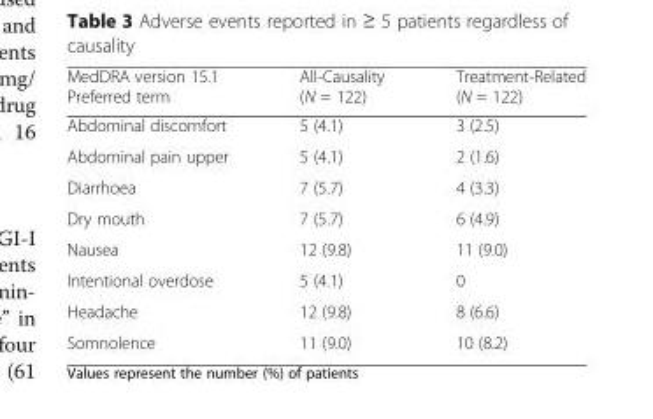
<table><thead><tr><td>MedDRA version 15.1 Preferred term</td><td>All-Causality (N = 122)</td><td>Treatment-Related (N = 122)</td></tr></thead><tbody><tr><td>Abdominal discomfort</td><td>5 (4.1)</td><td>3 (2.5)</td></tr><tr><td>Abdominal pain upper</td><td>5 (4.1)</td><td>2 (1.6)</td></tr><tr><td>Diarrhoea</td><td>7 (5.7)</td><td>4 (3.3)</td></tr><tr><td>Dry mouth</td><td>7 (5.7)</td><td>6 (4.9)</td></tr><tr><td>Nausea</td><td>12 (9.8)</td><td>11 (9.0)</td></tr><tr><td>Intentional overdose</td><td>5 (4.1)</td><td>0</td></tr><tr><td>Headache</td><td>12 (9.8)</td><td>8 (6.6)</td></tr><tr><td>Somnolence</td><td>11 (9.0)</td><td>10 (8.2)</td></tr></tbody></table>